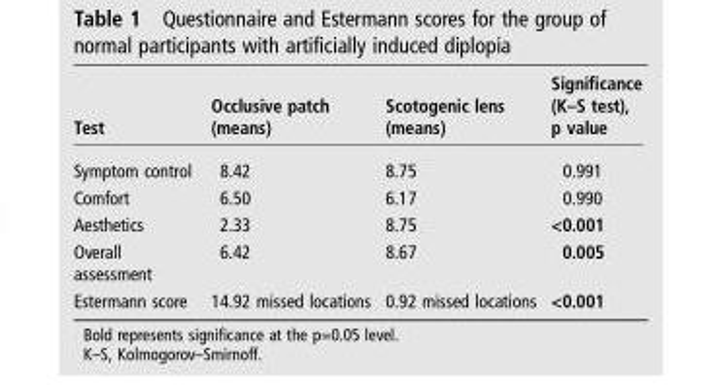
<table><thead><tr><td>Test</td><td>Occlusive patch (means)</td><td>Scotogenic lens (means)</td><td>Significance (K–S test), p value</td></tr></thead><tbody><tr><td>Symptom control</td><td>8.42</td><td>8.75</td><td>0.991</td></tr><tr><td>Comfort</td><td>6.50</td><td>6.17</td><td>0.990</td></tr><tr><td>Aesthetics</td><td>2.33</td><td>8.75</td><td>&lt;0.001</td></tr><tr><td>Overall assessment</td><td>6.42</td><td>8.67</td><td>0.005</td></tr><tr><td>Estermann score</td><td>14.92 missed locations</td><td>0.92 missed locations</td><td>&lt;0.001</td></tr></tbody></table>